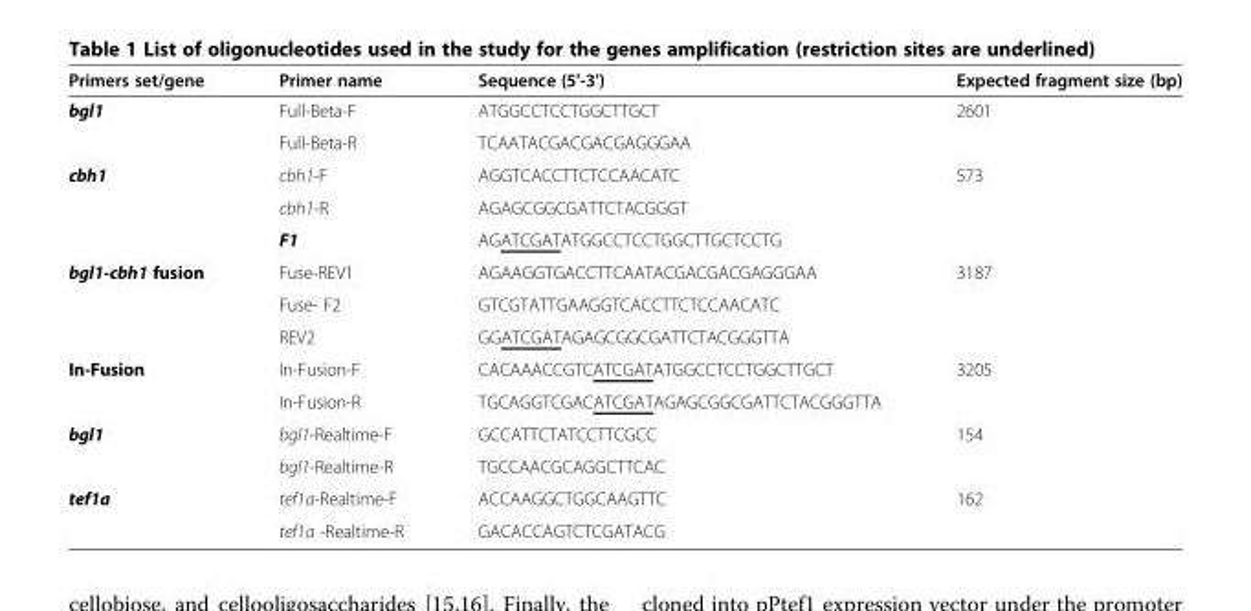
<table><thead><tr><td>Primers set/gene</td><td>Primer name</td><td>Sequence (5&#x27;-3&#x27;)</td><td>Expected fragment size (bp)</td></tr></thead><tbody><tr><td rowspan="2">bgl1</td><td>Full-Beta-F</td><td>ATGGCCTCCTGGCTTGCT</td><td>2601</td></tr><tr><td>Full-Beta-R</td><td>TCAATACGACGACGAGGGAA</td><td></td></tr><tr><td rowspan="3">cbh1</td><td>cbh1-F</td><td>AGGTCACCTTCTCCAACATC</td><td>573</td></tr><tr><td>cbh1-R</td><td>AGAGCGGCGATTCTACGGGT</td><td></td></tr><tr><td>F1</td><td>AGATCGATATGGCCTCCTGGCTTGCTCCTG</td><td></td></tr><tr><td rowspan="3">bgl1-cbh1 fusion</td><td>Fuse-REV1</td><td>AGAAGGTGACCTTCAATACGACGACGAGGGAA</td><td>3187</td></tr><tr><td>Fuse- F2</td><td>GTCGTATTGAAGGTCACCTTCTCCAACATC</td><td></td></tr><tr><td>REV2</td><td>GGATCGATAGAGCGGCGATTCTACGGGTTA</td><td></td></tr><tr><td rowspan="2">In-Fusion</td><td>In-Fusion-F</td><td>CACAAACCGTCATCGATATGGCCTCCTGGCTTGCT</td><td>3205</td></tr><tr><td>In-Fusion-R</td><td>TGCAGGTCGACATCGATAGAGCGGCGATTCTACGGGTTA</td><td></td></tr><tr><td rowspan="2">bgl1</td><td>bgl1-Realtime-F</td><td>GCCATTCTATCCTTCGCC</td><td>154</td></tr><tr><td>bgl1-Realtime-R</td><td>TGCCAACGCAGGCTTCAC</td><td></td></tr><tr><td rowspan="2">tef1a</td><td>tef1a-Realtime-F</td><td>ACCAAGGCTGGCAAGTTC</td><td>162</td></tr><tr><td>tef1a -Realtime-R</td><td>GACACCAGTCTCGATACG</td><td></td></tr></tbody></table>